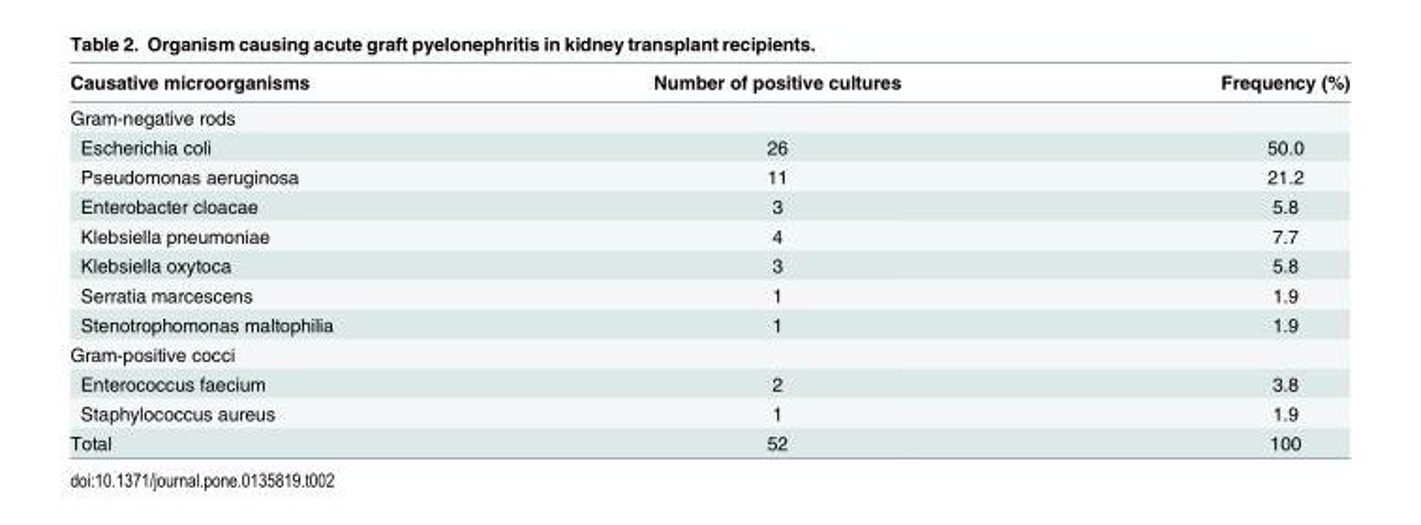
<table><thead><tr><td>Causative microorganisms</td><td>Number of positive cultures</td><td>Frequency (%)</td></tr></thead><tbody><tr><td colspan="3">Gram-negative rods</td></tr><tr><td>Escherichia coli</td><td>26</td><td>50.0</td></tr><tr><td>Pseudomonas aeruginosa</td><td>11</td><td>21.2</td></tr><tr><td>Enterobacter cloacae</td><td>3</td><td>5.8</td></tr><tr><td>Klebsiella pneumoniae</td><td>4</td><td>7.7</td></tr><tr><td>Klebsiella oxytoca</td><td>3</td><td>5.8</td></tr><tr><td>Serratia marcescens</td><td>1</td><td>1.9</td></tr><tr><td>Stenotrophomonas maltophilia</td><td>1</td><td>1.9</td></tr><tr><td colspan="3">Gram-positive cocci</td></tr><tr><td>Enterococcus faecium</td><td>2</td><td>3.8</td></tr><tr><td>Staphylococcus aureus</td><td>1</td><td>1.9</td></tr><tr><td>Total</td><td>52</td><td>100</td></tr></tbody></table>